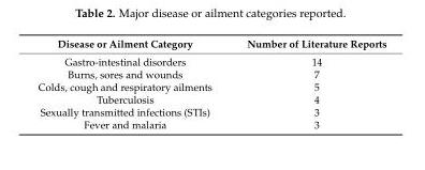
<table><thead><tr><td>Disease or Ailment Category</td><td>Number of Literature Reports</td></tr></thead><tbody><tr><td>Gastro-intestinal disorders</td><td>14</td></tr><tr><td>Burns, sores and wounds</td><td>7</td></tr><tr><td>Colds, cough and respiratory ailments</td><td>5</td></tr><tr><td>Tuberculosis</td><td>4</td></tr><tr><td>Sexually transmitted infections (STIs)</td><td>3</td></tr><tr><td>Fever and malaria</td><td>3</td></tr></tbody></table>